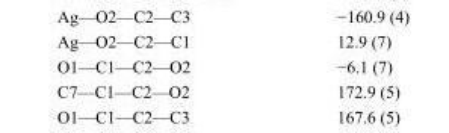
<table><tbody><tr><td>O1—C1—C2—O2</td><td>−6.1 (7)</td></tr></tbody></table>